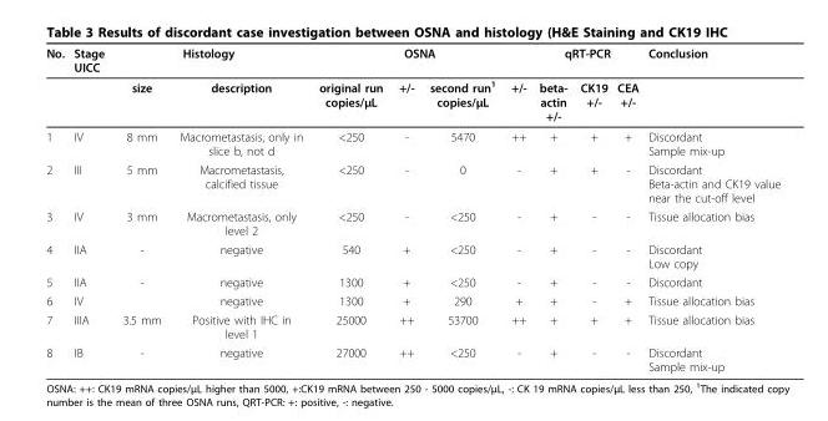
<table><thead><tr><td rowspan="2">No.</td><td rowspan="2">Stage UICC</td><td colspan="2">Histology</td><td colspan="4">OSNA</td><td colspan="3">qRT-PCR</td><td rowspan="2">Conclusion</td></tr><tr><td>size</td><td>description</td><td>original run copies/μL</td><td>+/-</td><td>second run<sup>1</sup> copies/μL</td><td>+/-</td><td>beta- actin +/-</td><td>CK19 +/-</td><td>CEA +/-</td></tr></thead><tbody><tr><td>1</td><td>IV</td><td>8 mm</td><td>Macrometastasis, only in slice b, not d</td><td>&lt;250</td><td>-</td><td>5470</td><td>++</td><td>+</td><td>+</td><td>+</td><td>Discordant Sample mix-up</td></tr><tr><td>2</td><td>III</td><td>5 mm</td><td>Macrometastasis, calcified tissue</td><td>&lt;250</td><td>-</td><td>0</td><td>-</td><td>+</td><td>+</td><td>-</td><td>Discordant Beta-actin and CK19 value near the cut-off level</td></tr><tr><td>3</td><td>IV</td><td>3 mm</td><td>Macrometastasis, only level 2</td><td>&lt;250</td><td>-</td><td>&lt;250</td><td>-</td><td>+</td><td>-</td><td>-</td><td>Tissue allocation bias</td></tr><tr><td>4</td><td>IIA</td><td>-</td><td>negative</td><td>540</td><td>+</td><td>&lt;250</td><td>-</td><td>+</td><td>-</td><td>-</td><td>Discordant Low copy</td></tr><tr><td>5</td><td>IIA</td><td>-</td><td>negative</td><td>1300</td><td>+</td><td>&lt;250</td><td>-</td><td>+</td><td>-</td><td>-</td><td>Discordant</td></tr><tr><td>6</td><td>IV</td><td></td><td>negative</td><td>1300</td><td>+</td><td>290</td><td>+</td><td>+</td><td>-</td><td>+</td><td>Tissue allocation bias</td></tr><tr><td>7</td><td>IIIA</td><td>3.5 mm</td><td>Positive with IHC in level 1</td><td>25000</td><td>++</td><td>53700</td><td>++</td><td>+</td><td>+</td><td>+</td><td>Tissue allocation bias</td></tr><tr><td>8</td><td>IB</td><td>-</td><td>negative</td><td>27000</td><td>++</td><td>&lt;250</td><td>-</td><td>+</td><td>-</td><td>-</td><td>Discordant Sample mix-up</td></tr></tbody></table>